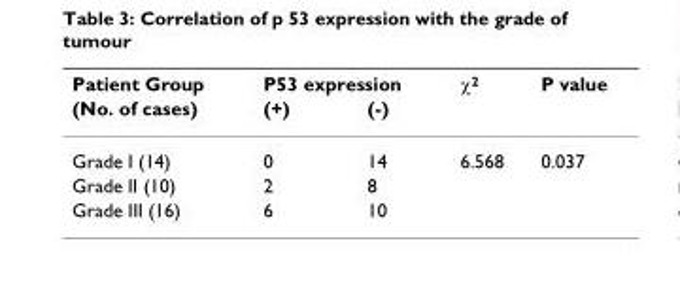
<table><thead><tr><td rowspan="2">Patient Group (No. of cases)</td><td colspan="2">P53 expression</td><td rowspan="2">χ2</td><td rowspan="2">P value</td></tr><tr><td>(+)</td><td>(-)</td></tr></thead><tbody><tr><td>Grade I (14)</td><td>0</td><td>14</td><td>6.568</td><td>0.037</td></tr><tr><td>Grade II (10)</td><td>2</td><td>8</td><td></td><td></td></tr><tr><td>Grade III (16)</td><td>6</td><td>10</td><td></td><td></td></tr></tbody></table>